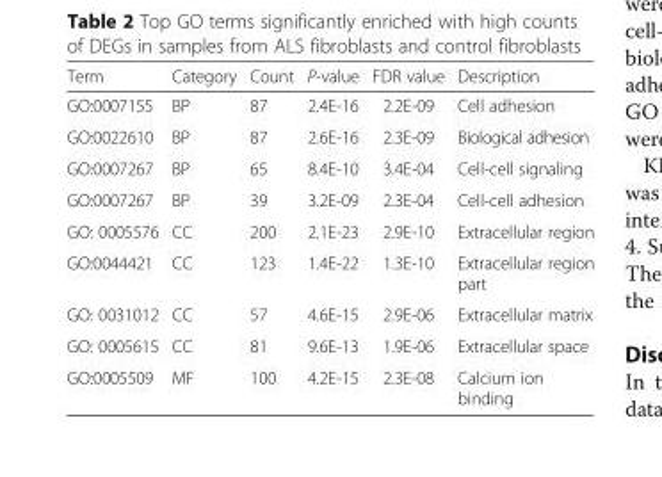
<table><thead><tr><td>Term</td><td>Category</td><td>Count</td><td>P-value</td><td>FDR value</td><td>Description</td></tr></thead><tbody><tr><td>GO:0007155</td><td>BP</td><td>87</td><td>2.4E-16</td><td>2.2E-09</td><td>Cell adhesion</td></tr><tr><td>GO:0022610</td><td>BP</td><td>87</td><td>2.6E-16</td><td>2.3E-09</td><td>Biological adhesion</td></tr><tr><td>GO:0007267</td><td>BP</td><td>65</td><td>8.4E-10</td><td>3.4E-04</td><td>Cell-cell signaling</td></tr><tr><td>GO:0007267</td><td>BP</td><td>39</td><td>3.2E-09</td><td>2.3E-04</td><td>Cell-cell adhesion</td></tr><tr><td>GO: 0005576</td><td>CC</td><td>200</td><td>2.1E-23</td><td>2.9E-10</td><td>Extracellular region</td></tr><tr><td>GO:0044421</td><td>CC</td><td>123</td><td>1.4E-22</td><td>1.3E-10</td><td>Extracellular region part</td></tr><tr><td>GO: 0031012</td><td>CC</td><td>57</td><td>4.6E-15</td><td>2.9E-06</td><td>Extracellular matrix</td></tr><tr><td>GO: 0005615</td><td>CC</td><td>81</td><td>9.6E-13</td><td>1.9E-06</td><td>Extracellular space</td></tr><tr><td>GO:0005509</td><td>MF</td><td>100</td><td>4.2E-15</td><td>2.3E-08</td><td>Calcium ion binding</td></tr></tbody></table>